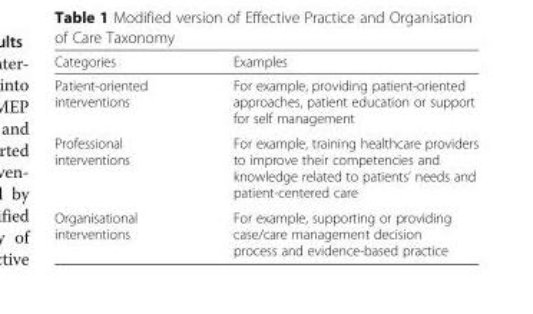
<table><thead><tr><td>Categories</td><td>Examples</td></tr></thead><tbody><tr><td>Patient-oriented interventions</td><td>For example, providing patient-oriented approaches, patient education or support for self management</td></tr><tr><td>Professional interventions</td><td>For example, training healthcare providers to improve their competencies and knowledge related to patients’ needs and patient-centered care</td></tr><tr><td>Organisational interventions</td><td>For example, supporting or providing case/care management decision process and evidence-based practice</td></tr></tbody></table>